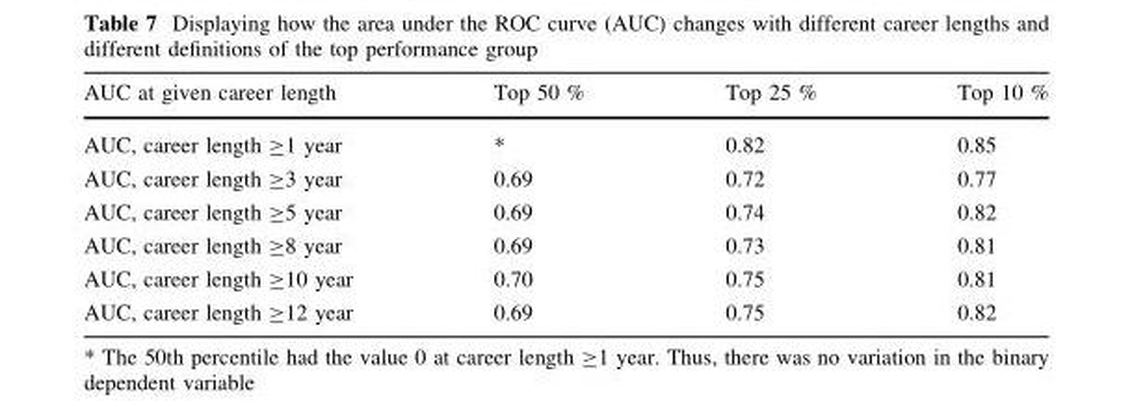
<table><thead><tr><td>AUC at given career length</td><td>Top 50 %</td><td>Top 25 %</td><td>Top 10 %</td></tr></thead><tbody><tr><td>AUC, career length ≥1 year</td><td>*</td><td>0.82</td><td>0.85</td></tr><tr><td>AUC, career length ≥3 year</td><td>0.69</td><td>0.72</td><td>0.77</td></tr><tr><td>AUC, career length ≥5 year</td><td>0.69</td><td>0.74</td><td>0.82</td></tr><tr><td>AUC, career length ≥8 year</td><td>0.69</td><td>0.73</td><td>0.81</td></tr><tr><td>AUC, career length ≥10 year</td><td>0.70</td><td>0.75</td><td>0.81</td></tr><tr><td>AUC, career length ≥12 year</td><td>0.69</td><td>0.75</td><td>0.82</td></tr></tbody></table>